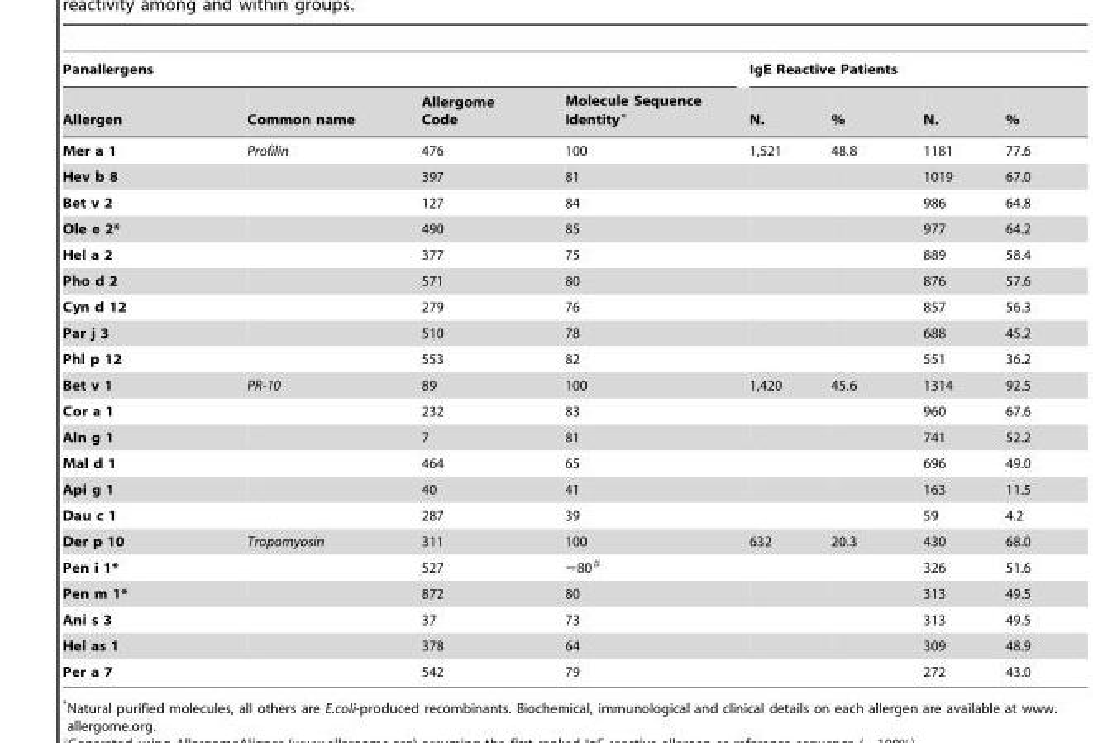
<table><thead><tr><td colspan="4">Panallergens</td><td colspan="4">IgE Reactive Patients</td></tr><tr><td>Allergen</td><td>Common name</td><td>Allergome Code</td><td>Molecule Sequence Identity°</td><td>N.</td><td>%</td><td>N.</td><td>%</td></tr></thead><tbody><tr><td>Mer a 1</td><td>Profilin</td><td>476</td><td>100</td><td>1,521</td><td>48.8</td><td>1181</td><td>77.6</td></tr><tr><td>Hev b 8</td><td></td><td>397</td><td>81</td><td></td><td></td><td>1019</td><td>67.0</td></tr><tr><td>Bet v 2</td><td></td><td>127</td><td>84</td><td></td><td></td><td>986</td><td>64.8</td></tr><tr><td>Ole e 2*</td><td></td><td>490</td><td>85</td><td></td><td></td><td>977</td><td>64.2</td></tr><tr><td>Hel a 2</td><td></td><td>377</td><td>75</td><td></td><td></td><td>889</td><td>58.4</td></tr><tr><td>Pho d 2</td><td></td><td>571</td><td>80</td><td></td><td></td><td>876</td><td>57.6</td></tr><tr><td>Cyn d 12</td><td></td><td>279</td><td>76</td><td></td><td></td><td>857</td><td>56.3</td></tr><tr><td>Par j 3</td><td></td><td>510</td><td>78</td><td></td><td></td><td>688</td><td>45.2</td></tr><tr><td>Phl p 12</td><td></td><td>553</td><td>82</td><td></td><td></td><td>551</td><td>36.2</td></tr><tr><td>Bet v 1</td><td>PR-10</td><td>89</td><td>100</td><td>1,420</td><td>45.6</td><td>1314</td><td>92.5</td></tr><tr><td>Cor a 1</td><td></td><td>232</td><td>83</td><td></td><td></td><td>960</td><td>67.6</td></tr><tr><td>Aln g 1</td><td></td><td>7</td><td>81</td><td></td><td></td><td>741</td><td>52.2</td></tr><tr><td>Mal d 1</td><td></td><td>464</td><td>65</td><td></td><td></td><td>696</td><td>49.0</td></tr><tr><td>Api g 1</td><td></td><td>40</td><td>41</td><td></td><td></td><td>163</td><td>11.5</td></tr><tr><td>Dau c 1</td><td></td><td>287</td><td>39</td><td></td><td></td><td>59</td><td>4.2</td></tr><tr><td>Der p 10</td><td>Tropomyosin</td><td>311</td><td>100</td><td>632</td><td>20.3</td><td>430</td><td>68.0</td></tr><tr><td>Pen i 1*</td><td></td><td>527</td><td>&lt;80#</td><td></td><td></td><td>326</td><td>51.6</td></tr><tr><td>Pen m 1*</td><td></td><td>872</td><td>80</td><td></td><td></td><td>313</td><td>49.5</td></tr><tr><td>Ani s 3</td><td></td><td>37</td><td>73</td><td></td><td></td><td>313</td><td>49.5</td></tr><tr><td>Hel as 1</td><td></td><td>378</td><td>64</td><td></td><td></td><td>309</td><td>48.9</td></tr><tr><td>Per a 7</td><td></td><td>542</td><td>79</td><td></td><td></td><td>272</td><td>43.0</td></tr></tbody></table>